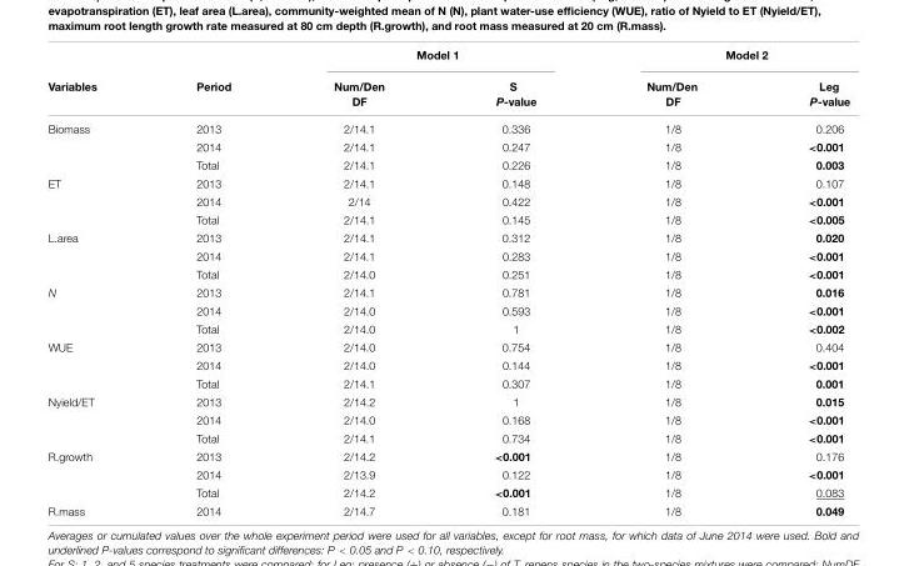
<table><thead><tr><td rowspan="2">Variables</td><td rowspan="2">Period</td><td colspan="2">Model 1</td><td colspan="2">Model 2</td></tr><tr><td>Num/Den DF</td><td>S P-value</td><td>Num/Den DF</td><td>Leg P-value</td></tr></thead><tbody><tr><td rowspan="3">Biomass</td><td>2013</td><td>2/14.1</td><td>0.336</td><td>1/8</td><td>0.206</td></tr><tr><td>2014</td><td>2/14.1</td><td>0.247</td><td>1/8</td><td>&lt;0.001</td></tr><tr><td>Total</td><td>2/14.1</td><td>0.226</td><td>1/8</td><td>0.003</td></tr><tr><td rowspan="3">ET</td><td>2013</td><td>2/14.1</td><td>0.148</td><td>1/8</td><td>0.107</td></tr><tr><td>2014</td><td>2/14</td><td>0.422</td><td>1/8</td><td>&lt;0.001</td></tr><tr><td>Total</td><td>2/14.1</td><td>0.145</td><td>1/8</td><td>&lt;0.005</td></tr><tr><td rowspan="3">L.area</td><td>2013</td><td>2/14.1</td><td>0.312</td><td>1/8</td><td>0.020</td></tr><tr><td>2014</td><td>2/14.1</td><td>0.283</td><td>1/8</td><td>&lt;0.001</td></tr><tr><td>Total</td><td>2/14.0</td><td>0.251</td><td>1/8</td><td>&lt;0.001</td></tr><tr><td rowspan="3">N</td><td>2013</td><td>2/14.1</td><td>0.781</td><td>1/8</td><td>0.016</td></tr><tr><td>2014</td><td>2/14.0</td><td>0.593</td><td>1/8</td><td>&lt;0.001</td></tr><tr><td>Total</td><td>2/14.0</td><td>1</td><td>1/8</td><td>&lt;0.002</td></tr><tr><td rowspan="3">WUE</td><td>2013</td><td>2/14.0</td><td>0.754</td><td>1/8</td><td>0.404</td></tr><tr><td>2014</td><td>2/14.0</td><td>0.144</td><td>1/8</td><td>&lt;0.001</td></tr><tr><td>Total</td><td>2/14.1</td><td>0.307</td><td>1/8</td><td>0.001</td></tr><tr><td rowspan="3">Nyield/ET</td><td>2013</td><td>2/14.2</td><td>1</td><td>1/8</td><td>0.015</td></tr><tr><td>2014</td><td>2/14.0</td><td>0.168</td><td>1/8</td><td>&lt;0.001</td></tr><tr><td>Total</td><td>2/14.1</td><td>0.734</td><td>1/8</td><td>&lt;0.001</td></tr><tr><td rowspan="3">R.growth</td><td>2013</td><td>2/14.2</td><td>&lt;0.001</td><td>1/8</td><td>0.176</td></tr><tr><td>2014</td><td>2/13.9</td><td>0.122</td><td>1/8</td><td>&lt;0.001</td></tr><tr><td>Total</td><td>2/14.2</td><td>&lt;0.001</td><td>1/8</td><td>0.083</td></tr><tr><td>R.mass</td><td>2014</td><td>2/14.7</td><td>0.181</td><td>1/8</td><td>0.049</td></tr></tbody></table>